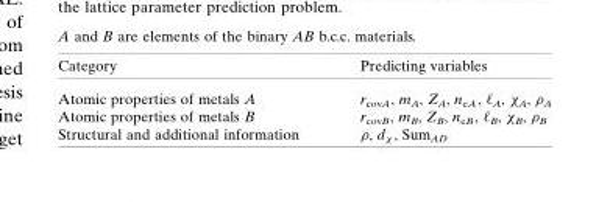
<table><thead><tr><td>Category</td><td>Predicting variables</td></tr></thead><tbody><tr><td>Atomic properties of metals A</td><td>rcovA, mA, ZA, neA, ‘A, �A, �A</td></tr><tr><td>Atomic properties of metals B</td><td>rcovB, mB, ZB, neB, ‘B, �B, �B</td></tr><tr><td>Structural and additional information</td><td>ρ, d<sub>χ</sub>, Sum<sub>AD</sub></td></tr></tbody></table>